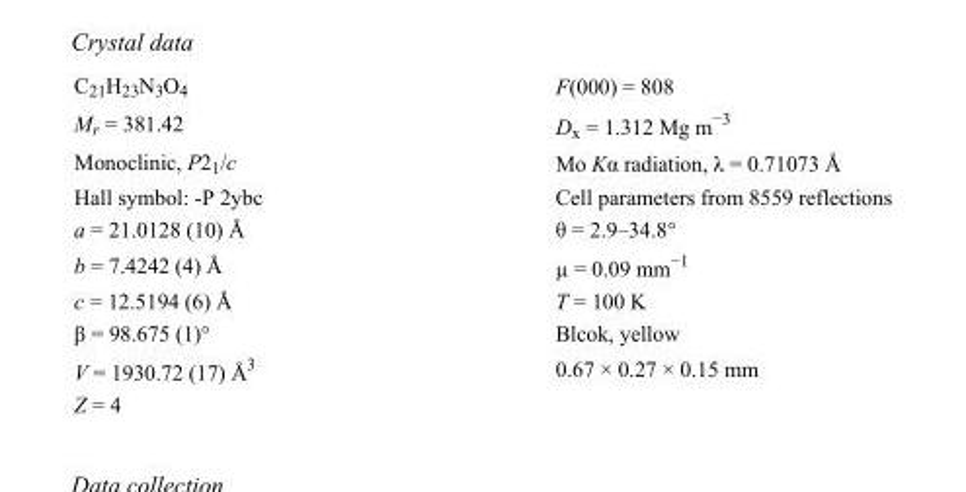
<table><tbody><tr><td>C<sub>21</sub>H<sub>23</sub>N<sub>3</sub>O<sub>4</sub></td><td>F(000) = 808</td></tr><tr><td>M<sub>r</sub> = 381.42</td><td>D<sub>x</sub> = 1.312 Mg m<sup>−3</sup></td></tr><tr><td>Monoclinic, P2<sub>1</sub>/c</td><td>Mo Kα radiation, λ = 0.71073 Å</td></tr><tr><td>Hall symbol: -P 2ybc</td><td>Cell parameters from 8559 reflections</td></tr><tr><td>a = 21.0128 (10) Å</td><td>θ = 2.9–34.8°</td></tr><tr><td>b = 7.4242 (4) Å</td><td>µ = 0.09 mm<sup>−1</sup></td></tr><tr><td>c = 12.5194 (6) Å</td><td>T = 100 K</td></tr><tr><td>β = 98.675 (1)°</td><td>Blcok, yellow</td></tr><tr><td>V = 1930.72 (17) Å<sup>3</sup></td><td>0.67 × 0.27 × 0.15 mm</td></tr><tr><td>Z = 4</td><td></td></tr></tbody></table>